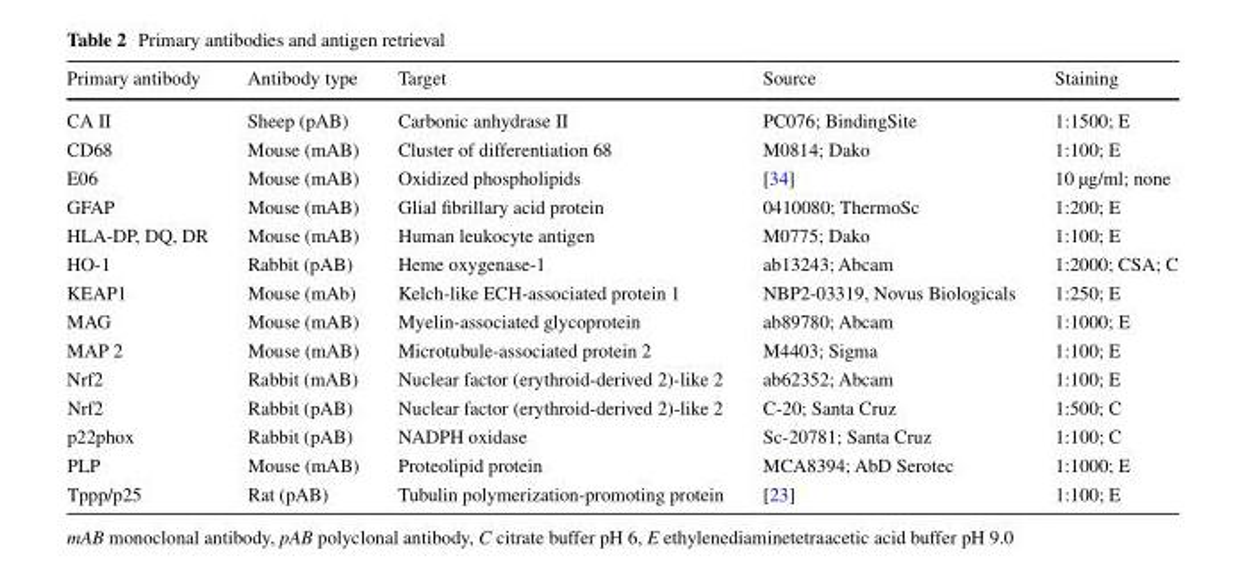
<table><thead><tr><td>Primary antibody</td><td>Antibody type</td><td>Target</td><td>Source</td><td>Staining</td></tr></thead><tbody><tr><td>CA II</td><td>Sheep (pAB)</td><td>Carbonic anhydrase II</td><td>PC076; BindingSite</td><td>1:1500; E</td></tr><tr><td>CD68</td><td>Mouse (mAB)</td><td>Cluster of differentiation 68</td><td>M0814; Dako</td><td>1:100; E</td></tr><tr><td>E06</td><td>Mouse (mAB)</td><td>Oxidized phospholipids</td><td>[34]</td><td>10 µg/ml; none</td></tr><tr><td>GFAP</td><td>Mouse (mAB)</td><td>Glial fibrillary acid protein</td><td>0410080; ThermoSc</td><td>1:200; E</td></tr><tr><td>HLA-DP, DQ, DR</td><td>Mouse (mAB)</td><td>Human leukocyte antigen</td><td>M0775; Dako</td><td>1:100; E</td></tr><tr><td>HO-1</td><td>Rabbit (pAB)</td><td>Heme oxygenase-1</td><td>ab13243; Abcam</td><td>1:2000; CSA; C</td></tr><tr><td>KEAP1</td><td>Mouse (mAb)</td><td>Kelch-like ECH-associated protein 1</td><td>NBP2-03319, Novus Biologicals</td><td>1:250; E</td></tr><tr><td>MAG</td><td>Mouse (mAB)</td><td>Myelin-associated glycoprotein</td><td>ab89780; Abcam</td><td>1:1000; E</td></tr><tr><td>MAP 2</td><td>Mouse (mAB)</td><td>Microtubule-associated protein 2</td><td>M4403; Sigma</td><td>1:100; E</td></tr><tr><td>Nrf2</td><td>Rabbit (mAB)</td><td>Nuclear factor (erythroid-derived 2)-like 2</td><td>ab62352; Abcam</td><td>1:100; E</td></tr><tr><td>Nrf2</td><td>Rabbit (pAB)</td><td>Nuclear factor (erythroid-derived 2)-like 2</td><td>C-20; Santa Cruz</td><td>1:500; C</td></tr><tr><td>p22phox</td><td>Rabbit (pAB)</td><td>NADPH oxidase</td><td>Sc-20781; Santa Cruz</td><td>1:100; C</td></tr><tr><td>PLP</td><td>Mouse (mAB)</td><td>Proteolipid protein</td><td>MCA8394; AbD Serotec</td><td>1:1000; E</td></tr><tr><td>Tppp/p25</td><td>Rat (pAB)</td><td>Tubulin polymerization-promoting protein</td><td>[23]</td><td>1:100; E</td></tr></tbody></table>